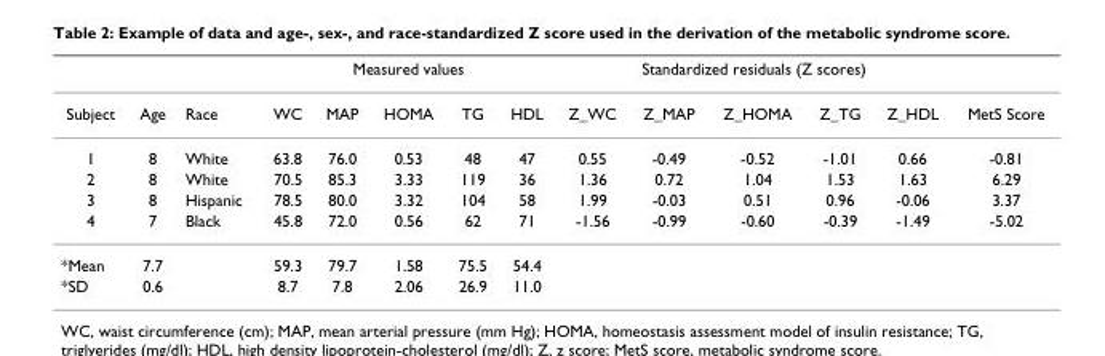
<table><thead><tr><td rowspan="2">Subject</td><td rowspan="2">Age</td><td rowspan="2">Race</td><td colspan="5">Measured values</td><td colspan="5">Standardized residuals (Z scores)</td><td rowspan="2">MetS Score</td></tr><tr><td>WC</td><td>MAP</td><td>HOMA</td><td>TG</td><td>HDL</td><td>Z_WC</td><td>Z_MAP</td><td>Z_HOMA</td><td>Z_TG</td><td>Z_HDL</td></tr></thead><tbody><tr><td>1</td><td>8</td><td>White</td><td>63.8</td><td>76.0</td><td>0.53</td><td>48</td><td>47</td><td>0.55</td><td>-0.49</td><td>-0.52</td><td>-1.01</td><td>0.66</td><td>-0.81</td></tr><tr><td>2</td><td>8</td><td>White</td><td>70.5</td><td>85.3</td><td>3.33</td><td>119</td><td>36</td><td>1.36</td><td>0.72</td><td>1.04</td><td>1.53</td><td>1.63</td><td>6.29</td></tr><tr><td>3</td><td>8</td><td>Hispanic</td><td>78.5</td><td>80.0</td><td>3.32</td><td>104</td><td>58</td><td>1.99</td><td>-0.03</td><td>0.51</td><td>0.96</td><td>-0.06</td><td>3.37</td></tr><tr><td>4</td><td>7</td><td>Black</td><td>45.8</td><td>72.0</td><td>0.56</td><td>62</td><td>71</td><td>-1.56</td><td>-0.99</td><td>-0.60</td><td>-0.39</td><td>-1.49</td><td>-5.02</td></tr><tr><td>*Mean</td><td>7.7</td><td></td><td>59.3</td><td>79.7</td><td>1.58</td><td>75.5</td><td>54.4</td><td></td><td></td><td></td><td></td><td></td><td></td></tr><tr><td>*SD</td><td>0.6</td><td></td><td>8.7</td><td>7.8</td><td>2.06</td><td>26.9</td><td>11.0</td><td></td><td></td><td></td><td></td><td></td><td></td></tr></tbody></table>